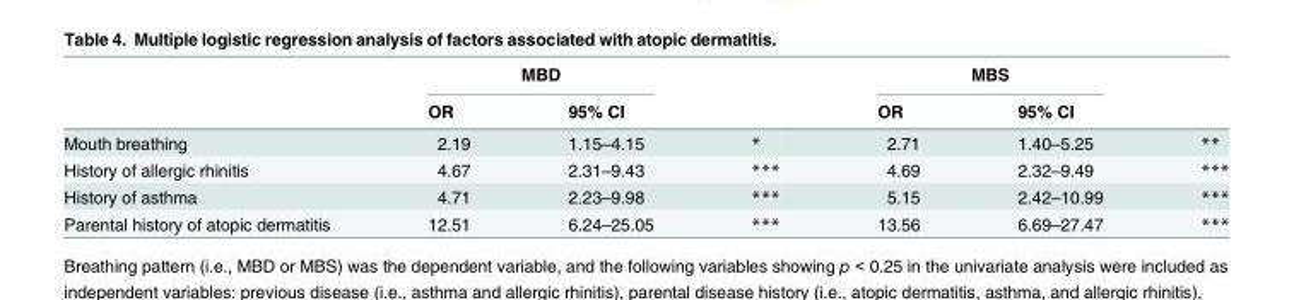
<table><thead><tr><td rowspan="2"></td><td colspan="2">MBD</td><td rowspan="2"></td><td colspan="2">MBS</td><td rowspan="2"></td></tr><tr><td>OR</td><td>95% CI</td><td>OR</td><td>95% CI</td></tr></thead><tbody><tr><td>Mouth breathing</td><td>2.19</td><td>1.15–4.15</td><td>*</td><td>2.71</td><td>1.40–5.25</td><td>**</td></tr><tr><td>History of allergic rhinitis</td><td>4.67</td><td>2.31–9.43</td><td>***</td><td>4.69</td><td>2.32–9.49</td><td>***</td></tr><tr><td>History of asthma</td><td>4.71</td><td>2.23–9.98</td><td>***</td><td>5.15</td><td>2.42–10.99</td><td>***</td></tr><tr><td>Parental history of atopic dermatitis</td><td>12.51</td><td>6.24–25.05</td><td>***</td><td>13.56</td><td>6.69–27.47</td><td>***</td></tr></tbody></table>